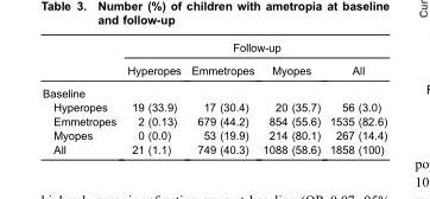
<table><thead><tr><td rowspan="2"></td><td colspan="4">Follow-up</td></tr><tr><td>Hyperopes</td><td>Emmetropes</td><td>Myopes</td><td>All</td></tr></thead><tbody><tr><td colspan="5">Baseline</td></tr><tr><td>Hyperopes</td><td>19 (33.9)</td><td>17 (30.4)</td><td>20 (35.7)</td><td>56 (3.0)</td></tr><tr><td>Emmetropes</td><td>2 (0.13)</td><td>679 (44.2)</td><td>854 (55.6)</td><td>1535 (82.6)</td></tr><tr><td>Myopes</td><td>0 (0.0)</td><td>53 (19.9)</td><td>214 (80.1)</td><td>267 (14.4)</td></tr><tr><td>All</td><td>21 (1.1)</td><td>749 (40.3)</td><td>1088 (58.6)</td><td>1858 (100)</td></tr></tbody></table>